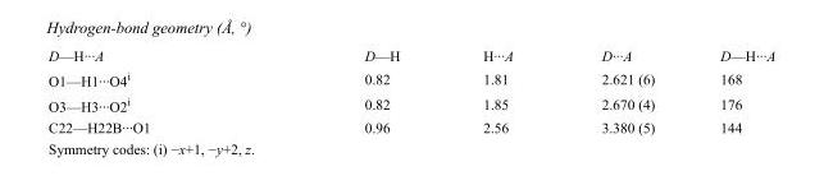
<table><tbody><tr><td>D—H···A</td><td>D—H</td><td>H···A</td><td>D···A</td><td>D—H···A</td></tr><tr><td>O1—H1···O4<sup>i</sup></td><td>0.82</td><td>1.81</td><td>2.621 (6)</td><td>168</td></tr><tr><td>O3—H3···O2<sup>i</sup></td><td>0.82</td><td>1.85</td><td>2.670 (4)</td><td>176</td></tr><tr><td>C22—H22B···O1</td><td>0.96</td><td>2.56</td><td>3.380 (5)</td><td>144</td></tr></tbody></table>